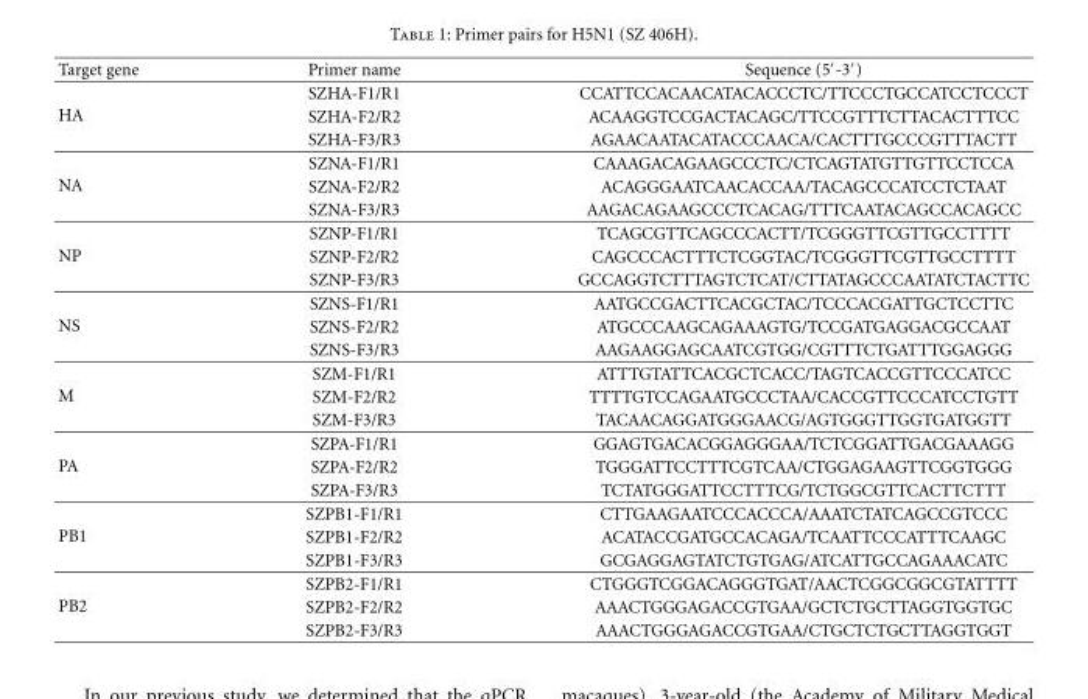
<table><thead><tr><td>Target gene</td><td>Primer name</td><td>Sequence (5′-3′)</td></tr></thead><tbody><tr><td rowspan="3">HA</td><td>SZHA-F1/R1</td><td>CCATTCCACAACATACACCCTC/TTCCCTGCCATCCTCCCT</td></tr><tr><td>SZHA-F2/R2</td><td>ACAAGGTCCGACTACAGC/TTCCGTTTCTTACACTTTCC</td></tr><tr><td>SZHA-F3/R3</td><td>AGAACAATACATACCCAACA/CACTTTGCCCGTTTACTT</td></tr><tr><td rowspan="3">NA</td><td>SZNA-F1/R1</td><td>CAAAGACAGAAGCCCTC/CTCAGTATGTTGTTCCTCCA</td></tr><tr><td>SZNA-F2/R2</td><td>ACAGGGAATCAACACCAA/TACAGCCCATCCTCTAAT</td></tr><tr><td>SZNA-F3/R3</td><td>AAGACAGAAGCCCTCACAG/TTTCAATACAGCCACAGCC</td></tr><tr><td rowspan="3">NP</td><td>SZNP-F1/R1</td><td>TCAGCGTTCAGCCCACTT/TCGGGTTCGTTGCCTTTT</td></tr><tr><td>SZNP-F2/R2</td><td>CAGCCCACTTTCTCGGTAC/TCGGGTTCGTTGCCTTTT</td></tr><tr><td>SZNP-F3/R3</td><td>GCCAGGTCTTTAGTCTCAT/CTTATAGCCCAATATCTACTTC</td></tr><tr><td rowspan="3">NS</td><td>SZNS-F1/R1</td><td>AATGCCGACTTCACGCTAC/TCCCACGATTGCTCCTTC</td></tr><tr><td>SZNS-F2/R2</td><td>ATGCCCAAGCAGAAAGTG/TCCGATGAGGACGCCAAT</td></tr><tr><td>SZNS-F3/R3</td><td>AAGAAGGAGCAATCGTGG/CGTTTCTGATTTGGAGGG</td></tr><tr><td rowspan="3">M</td><td>SZM-F1/R1</td><td>ATTTGTATTCACGCTCACC/TAGTCACCGTTCCCATCC</td></tr><tr><td>SZM-F2/R2</td><td>TTTTGTCCAGAATGCCCTAA/CACCGTTCCCATCCTGTT</td></tr><tr><td>SZM-F3/R3</td><td>TACAACAGGATGGGAACG/AGTGGGTTGGTGATGGTT</td></tr><tr><td rowspan="3">PA</td><td>SZPA-F1/R1</td><td>GGAGTGACACGGAGGGAA/TCTCGGATTGACGAAAGG</td></tr><tr><td>SZPA-F2/R2</td><td>TGGGATTCCTTTCGTCAA/CTGGAGAAGTTCGGTGGG</td></tr><tr><td>SZPA-F3/R3</td><td>TCTATGGGATTCCTTTCG/TCTGGCGTTCACTTCTTT</td></tr><tr><td rowspan="3">PB1</td><td>SZPB1-F1/R1</td><td>CTTGAAGAATCCCACCCA/AAATCTATCAGCCGTCCC</td></tr><tr><td>SZPB1-F2/R2</td><td>ACATACCGATGCCACAGA/TCAATTCCCATTTCAAGC</td></tr><tr><td>SZPB1-F3/R3</td><td>GCGAGGAGTATCTGTGAG/ATCATTGCCAGAAACATC</td></tr><tr><td rowspan="3">PB2</td><td>SZPB2-F1/R1</td><td>CTGGGTCGGACAGGGTGAT/AACTCGGCGGCGTATTTT</td></tr><tr><td>SZPB2-F2/R2</td><td>AAACTGGGAGACCGTGAA/GCTCTGCTTAGGTGGTGC</td></tr><tr><td>SZPB2-F3/R3</td><td>AAACTGGGAGACCGTGAA/CTGCTCTGCTTAGGTGGT</td></tr></tbody></table>